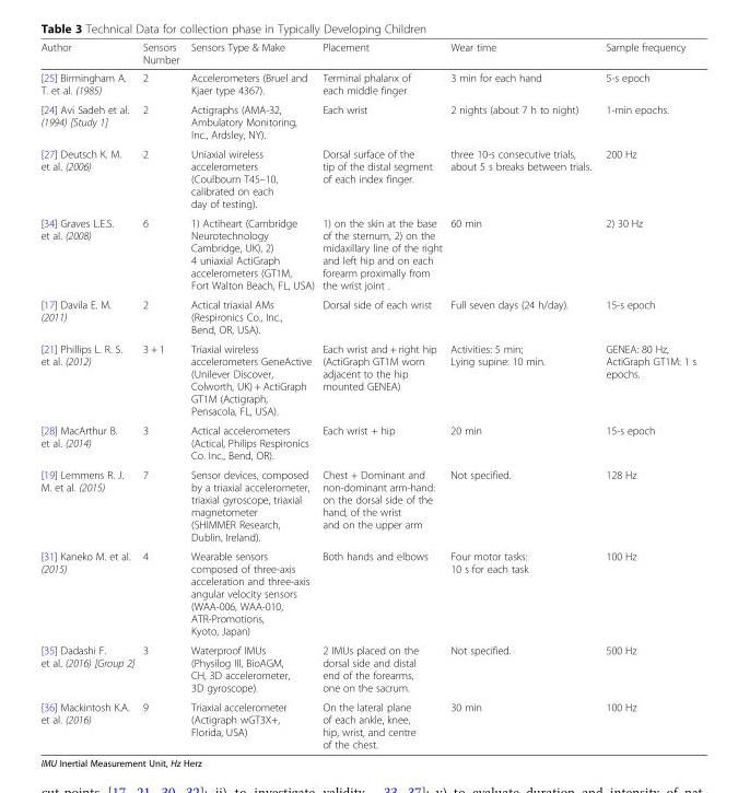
<table><thead><tr><td>Author</td><td>Sensors Number</td><td>Sensors Type &amp; Make</td><td>Placement</td><td>Wear time</td><td>Sample frequency</td></tr></thead><tbody><tr><td>[25] Birmingham A. T. et al. (1985)</td><td>2</td><td>Accelerometers (Bruel and Kjaer type 4367).</td><td>Terminal phalanx of each middle finger</td><td>3 min for each hand</td><td>5-s epoch</td></tr><tr><td>[24] Avi Sadeh et al. (1994) [Study 1]</td><td>2</td><td>Actigraphs (AMA-32, Ambulatory Monitoring, Inc., Ardsley, NY).</td><td>Each wrist</td><td>2 nights (about 7 h to night)</td><td>1-min epochs.</td></tr><tr><td>[27] Deutsch K. M. et al. (2006)</td><td>2</td><td>Uniaxial wireless accelerometers (Coulbourn T45–10, calibrated on each day of testing).</td><td>Dorsal surface of the tip of the distal segment of each index finger.</td><td>three 10-s consecutive trials, about 5 s breaks between trials.</td><td>200 Hz</td></tr><tr><td>[34] Graves L.E.S. et al. (2008)</td><td>6</td><td>1) Actiheart (Cambridge Neurotechnology Cambridge, UK), 2) 4 uniaxial ActiGraph accelerometers (GT1M, Fort Walton Beach, FL, USA)</td><td>1) on the skin at the base of the sternum, 2) on the midaxillary line of the right and left hip and on each forearm proximally from the wrist joint .</td><td>60 min</td><td>2) 30 Hz</td></tr><tr><td>[17] Davila E. M. (2011)</td><td>2</td><td>Actical triaxial AMs (Respironics Co., Inc., Bend, OR, USA).</td><td>Dorsal side of each wrist</td><td>Full seven days (24 h/day).</td><td>15-s epoch</td></tr><tr><td>[21] Phillips L. R. S. et al. (2012)</td><td>3 + 1</td><td>Triaxial wireless accelerometers GeneActive (Unilever Discover, Colworth, UK) + ActiGraph GT1M (Actigraph, Pensacola, FL, USA).</td><td>Each wrist and + right hip (ActiGraph GT1M worn adjacent to the hip mounted GENEA)</td><td>Activities: 5 min; Lying supine: 10 min.</td><td>GENEA: 80 Hz, ActiGraph GT1M: 1 s epochs.</td></tr><tr><td>[28] MacArthur B. et al. (2014)</td><td>3</td><td>Actical accelerometers (Actical, Philips Respironics Co. Inc., Bend, OR).</td><td>Each wrist + hip</td><td>20 min</td><td>15-s epoch</td></tr><tr><td>[19] Lemmens R. J. M. et al. (2015)</td><td>7</td><td>Sensor devices, composed by a triaxial accelerometer, triaxial gyroscope, triaxial magnetometer (SHIMMER Research, Dublin, Ireland).</td><td>Chest + Dominant and non-dominant arm-hand: on the dorsal side of the hand, of the wrist and on the upper arm</td><td>Not specified.</td><td>128 Hz</td></tr><tr><td>[31] Kaneko M. et al. (2015)</td><td>4</td><td>Wearable sensors composed of three-axis acceleration and three-axis angular velocity sensors (WAA-006, WAA-010, ATR-Promotions, Kyoto, Japan)</td><td>Both hands and elbows</td><td>Four motor tasks: 10 s for each task</td><td>100 Hz</td></tr><tr><td>[35] Dadashi F. et al. (2016) [Group 2]</td><td>3</td><td>Waterproof IMUs (Physilog III, BioAGM, CH, 3D accelerometer, 3D gyroscope).</td><td>2 IMUs placed on the dorsal side and distal end of the forearms, one on the sacrum.</td><td>Not specified.</td><td>500 Hz</td></tr><tr><td>[36] Mackintosh K.A. et al. (2016)</td><td>9</td><td>Triaxial accelerometer (Actigraph wGT3X+, Florida, USA)</td><td>On the lateral plane of each ankle, knee, hip, wrist, and centre of the chest.</td><td>30 min</td><td>100 Hz</td></tr></tbody></table>